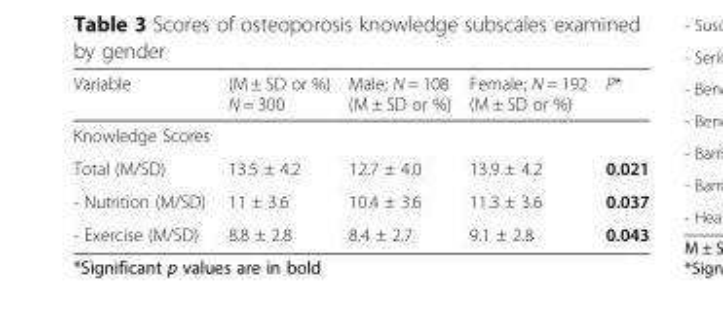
<table><thead><tr><td>Variable</td><td>(M ± SD or %) N = 300</td><td>Male; N = 108 (M ± SD or %)</td><td>Female; N = 192 (M ± SD or %)</td><td>P*</td></tr></thead><tbody><tr><td colspan="5">Knowledge Scores</td></tr><tr><td>Total (M/SD)</td><td>13.5 ± 4.2</td><td>12.7 ± 4.0</td><td>13.9 ± 4.2</td><td>0.021</td></tr><tr><td>- Nutrition (M/SD)</td><td>11 ± 3.6</td><td>10.4 ± 3.6</td><td>11.3 ± 3.6</td><td>0.037</td></tr><tr><td>- Exercise (M/SD)</td><td>8.8 ± 2.8</td><td>8.4 ± 2.7</td><td>9.1 ± 2.8</td><td>0.043</td></tr></tbody></table>